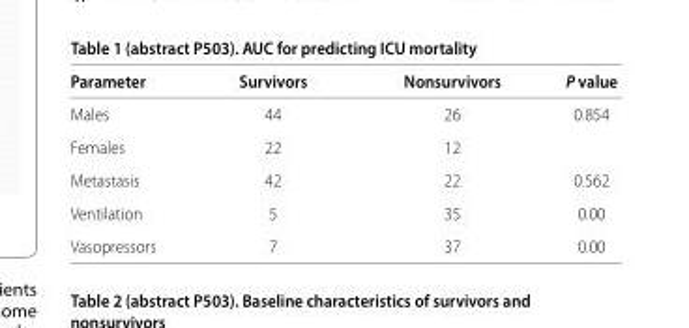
<table><thead><tr><td>Parameter</td><td>Survivors</td><td>Nonsurvivors</td><td>P value</td></tr></thead><tbody><tr><td>Males</td><td>44</td><td>26</td><td>0.854</td></tr><tr><td>Females</td><td>22</td><td>12</td><td></td></tr><tr><td>Metastasis</td><td>42</td><td>22</td><td>0.562</td></tr><tr><td>Ventilation</td><td>5</td><td>35</td><td>0.00</td></tr><tr><td>Vasopressors</td><td>7</td><td>37</td><td>0.00</td></tr></tbody></table>